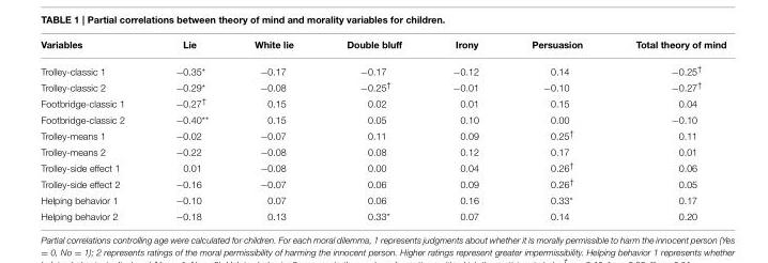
<table><thead><tr><td>Variables</td><td>Lie</td><td>White lie</td><td>Double bluff</td><td>Irony</td><td>Persuasion</td><td>Total theory of mind</td></tr></thead><tbody><tr><td>Trolley-classic 1</td><td>−0.35*</td><td>−0.17</td><td>−0.17</td><td>−0.12</td><td>0.14</td><td>−0.25<sup>†</sup></td></tr><tr><td>Trolley-classic 2</td><td>−0.29*</td><td>−0.08</td><td>−0.25<sup>†</sup></td><td>−0.01</td><td>−0.10</td><td>−0.27<sup>†</sup></td></tr><tr><td>Footbridge-classic 1</td><td>−0.27<sup>†</sup></td><td>0.15</td><td>0.02</td><td>0.01</td><td>0.15</td><td>0.04</td></tr><tr><td>Footbridge-classic 2</td><td>−0.40**</td><td>0.15</td><td>0.05</td><td>0.10</td><td>0.00</td><td>−0.10</td></tr><tr><td>Trolley-means 1</td><td>−0.02</td><td>−0.07</td><td>0.11</td><td>0.09</td><td>0.25<sup>†</sup></td><td>0.11</td></tr><tr><td>Trolley-means 2</td><td>−0.22</td><td>−0.08</td><td>0.08</td><td>0.12</td><td>0.17</td><td>0.01</td></tr><tr><td>Trolley-side effect 1</td><td>0.01</td><td>−0.08</td><td>0.00</td><td>0.04</td><td>0.26<sup>†</sup></td><td>0.06</td></tr><tr><td>Trolley-side effect 2</td><td>−0.16</td><td>−0.07</td><td>0.06</td><td>0.09</td><td>0.26<sup>†</sup></td><td>0.05</td></tr><tr><td>Helping behavior 1</td><td>−0.10</td><td>0.07</td><td>0.06</td><td>0.16</td><td>0.33*</td><td>0.17</td></tr><tr><td>Helping behavior 2</td><td>−0.18</td><td>0.13</td><td>0.33*</td><td>0.07</td><td>0.14</td><td>0.20</td></tr></tbody></table>